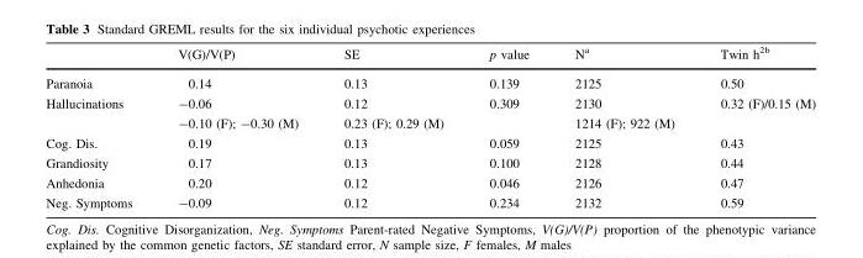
<table><thead><tr><td></td><td>V(G)/V(P)</td><td>SE</td><td>p value</td><td>N<sup>a</sup></td><td>Twin h<sup>2b</sup></td></tr></thead><tbody><tr><td>Paranoia</td><td>0.14</td><td>0.13</td><td>0.139</td><td>2125</td><td>0.50</td></tr><tr><td>Hallucinations</td><td>-0.06 -0.10 (F); -0.30 (M)</td><td>0.12 0.23 (F); 0.29 (M)</td><td>0.309</td><td>2130 1214 (F); 922 (M)</td><td>0.32 (F)/0.15 (M)</td></tr><tr><td>Cog. Dis.</td><td>0.19</td><td>0.13</td><td>0.059</td><td>2125</td><td>0.43</td></tr><tr><td>Grandiosity</td><td>0.17</td><td>0.13</td><td>0.100</td><td>2128</td><td>0.44</td></tr><tr><td>Anhedonia</td><td>0.20</td><td>0.12</td><td>0.046</td><td>2126</td><td>0.47</td></tr><tr><td>Neg. Symptoms</td><td>-0.09</td><td>0.12</td><td>0.234</td><td>2132</td><td>0.59</td></tr></tbody></table>